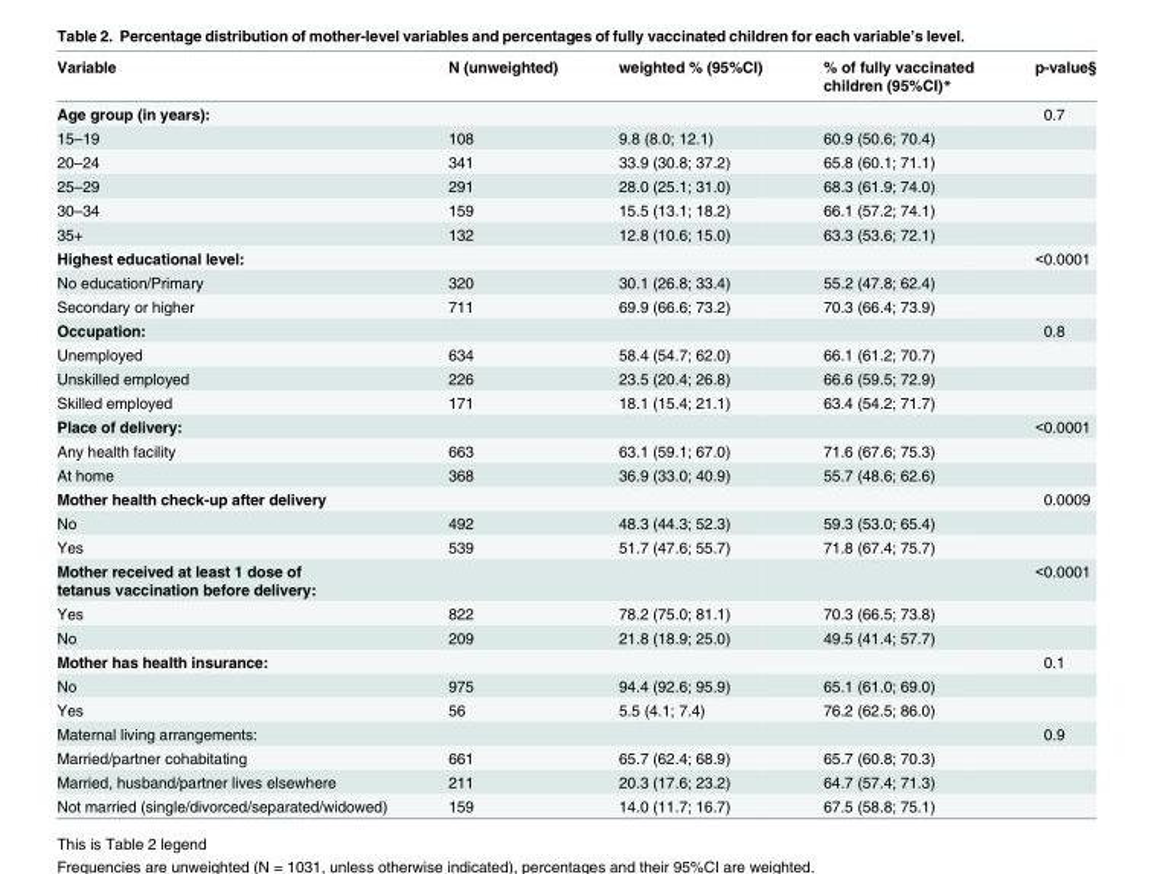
<table><thead><tr><td>Variable</td><td>N (unweighted)</td><td>weighted % (95%CI)</td><td>% of fully vaccinated children (95%CI)*</td><td>p-value§</td></tr></thead><tbody><tr><td>Age group (in years):</td><td></td><td></td><td></td><td>0.7</td></tr><tr><td>15–19</td><td>108</td><td>9.8 (8.0; 12.1)</td><td>60.9 (50.6; 70.4)</td><td></td></tr><tr><td>20–24</td><td>341</td><td>33.9 (30.8; 37.2)</td><td>65.8 (60.1; 71.1)</td><td></td></tr><tr><td>25–29</td><td>291</td><td>28.0 (25.1; 31.0)</td><td>68.3 (61.9; 74.0)</td><td></td></tr><tr><td>30–34</td><td>159</td><td>15.5 (13.1; 18.2)</td><td>66.1 (57.2; 74.1)</td><td></td></tr><tr><td>35+</td><td>132</td><td>12.8 (10.6; 15.0)</td><td>63.3 (53.6; 72.1)</td><td></td></tr><tr><td>Highest educational level:</td><td></td><td></td><td></td><td>&lt;0.0001</td></tr><tr><td>No education/Primary</td><td>320</td><td>30.1 (26.8; 33.4)</td><td>55.2 (47.8; 62.4)</td><td></td></tr><tr><td>Secondary or higher</td><td>711</td><td>69.9 (66.6; 73.2)</td><td>70.3 (66.4; 73.9)</td><td></td></tr><tr><td>Occupation:</td><td></td><td></td><td></td><td>0.8</td></tr><tr><td>Unemployed</td><td>634</td><td>58.4 (54.7; 62.0)</td><td>66.1 (61.2; 70.7)</td><td></td></tr><tr><td>Unskilled employed</td><td>226</td><td>23.5 (20.4; 26.8)</td><td>66.6 (59.5; 72.9)</td><td></td></tr><tr><td>Skilled employed</td><td>171</td><td>18.1 (15.4; 21.1)</td><td>63.4 (54.2; 71.7)</td><td></td></tr><tr><td>Place of delivery:</td><td></td><td></td><td></td><td>&lt;0.0001</td></tr><tr><td>Any health facility</td><td>663</td><td>63.1 (59.1; 67.0)</td><td>71.6 (67.6; 75.3)</td><td></td></tr><tr><td>At home</td><td>368</td><td>36.9 (33.0; 40.9)</td><td>55.7 (48.6; 62.6)</td><td></td></tr><tr><td>Mother health check-up after delivery</td><td></td><td></td><td></td><td>0.0009</td></tr><tr><td>No</td><td>492</td><td>48.3 (44.3; 52.3)</td><td>59.3 (53.0; 65.4)</td><td></td></tr><tr><td>Yes</td><td>539</td><td>51.7 (47.6; 55.7)</td><td>71.8 (67.4; 75.7)</td><td></td></tr><tr><td>Mother received at least 1 dose of tetanus vaccination before delivery:</td><td></td><td></td><td></td><td>&lt;0.0001</td></tr><tr><td>Yes</td><td>822</td><td>78.2 (75.0; 81.1)</td><td>70.3 (66.5; 73.8)</td><td></td></tr><tr><td>No</td><td>209</td><td>21.8 (18.9; 25.0)</td><td>49.5 (41.4; 57.7)</td><td></td></tr><tr><td>Mother has health insurance:</td><td></td><td></td><td></td><td>0.1</td></tr><tr><td>No</td><td>975</td><td>94.4 (92.6; 95.9)</td><td>65.1 (61.0; 69.0)</td><td></td></tr><tr><td>Yes</td><td>56</td><td>5.5 (4.1; 7.4)</td><td>76.2 (62.5; 86.0)</td><td></td></tr><tr><td>Maternal living arrangements:</td><td></td><td></td><td></td><td>0.9</td></tr><tr><td>Married/partner cohabitating</td><td>661</td><td>65.7 (62.4; 68.9)</td><td>65.7 (60.8; 70.3)</td><td></td></tr><tr><td>Married, husband/partner lives elsewhere</td><td>211</td><td>20.3 (17.6; 23.2)</td><td>64.7 (57.4; 71.3)</td><td></td></tr><tr><td>Not married (single/divorced/separated/widowed)</td><td>159</td><td>14.0 (11.7; 16.7)</td><td>67.5 (58.8; 75.1)</td><td></td></tr></tbody></table>